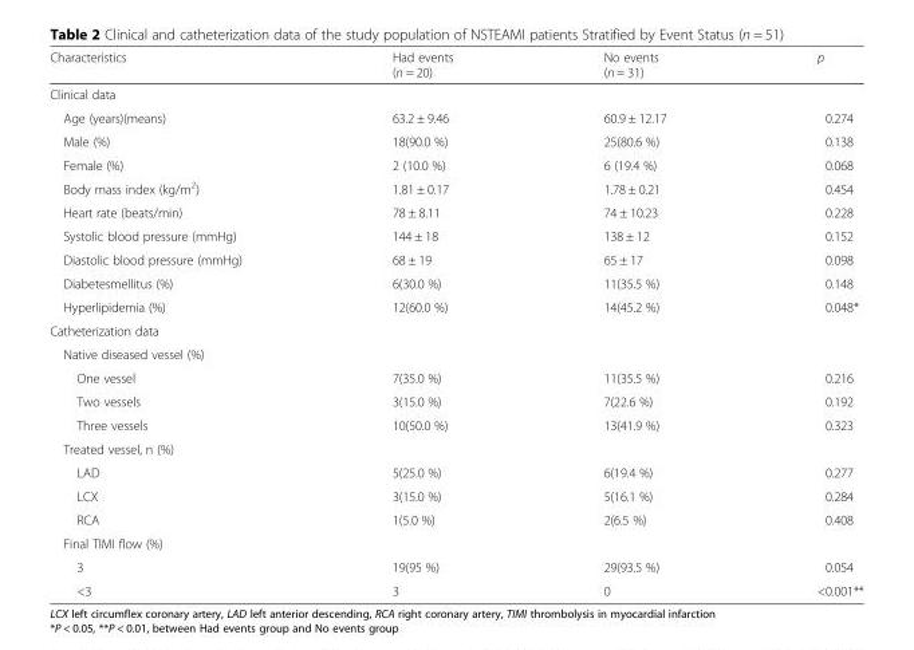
<table><thead><tr><td>Characteristics</td><td>Had events (n = 20)</td><td>No events (n = 31)</td><td>p</td></tr></thead><tbody><tr><td colspan="4">Clinical data</td></tr><tr><td>Age (years)(means)</td><td>63.2 ± 9.46</td><td>60.9 ± 12.17</td><td>0.274</td></tr><tr><td>Male (%)</td><td>18(90.0 %)</td><td>25(80.6 %)</td><td>0.138</td></tr><tr><td>Female (%)</td><td>2 (10.0 %)</td><td>6 (19.4 %)</td><td>0.068</td></tr><tr><td>Body mass index (kg/m<sup>2</sup>)</td><td>1.81 ± 0.17</td><td>1.78 ± 0.21</td><td>0.454</td></tr><tr><td>Heart rate (beats/min)</td><td>78 ± 8.11</td><td>74 ± 10.23</td><td>0.228</td></tr><tr><td>Systolic blood pressure (mmHg)</td><td>144 ± 18</td><td>138 ± 12</td><td>0.152</td></tr><tr><td>Diastolic blood pressure (mmHg)</td><td>68 ± 19</td><td>65 ± 17</td><td>0.098</td></tr><tr><td>Diabetesmellitus (%)</td><td>6(30.0 %)</td><td>11(35.5 %)</td><td>0.148</td></tr><tr><td>Hyperlipidemia (%)</td><td>12(60.0 %)</td><td>14(45.2 %)</td><td>0.048*</td></tr><tr><td colspan="4">Catheterization data</td></tr><tr><td colspan="4">Native diseased vessel (%)</td></tr><tr><td>One vessel</td><td>7(35.0 %)</td><td>11(35.5 %)</td><td>0.216</td></tr><tr><td>Two vessels</td><td>3(15.0 %)</td><td>7(22.6 %)</td><td>0.192</td></tr><tr><td>Three vessels</td><td>10(50.0 %)</td><td>13(41.9 %)</td><td>0.323</td></tr><tr><td colspan="4">Treated vessel, n (%)</td></tr><tr><td>LAD</td><td>5(25.0 %)</td><td>6(19.4 %)</td><td>0.277</td></tr><tr><td>LCX</td><td>3(15.0 %)</td><td>5(16.1 %)</td><td>0.284</td></tr><tr><td>RCA</td><td>1(5.0 %)</td><td>2(6.5 %)</td><td>0.408</td></tr><tr><td colspan="4">Final TIMI flow (%)</td></tr><tr><td>3</td><td>19(95 %)</td><td>29(93.5 %)</td><td>0.054</td></tr><tr><td>&lt;3</td><td>3</td><td>0</td><td>&lt;0.001**</td></tr></tbody></table>